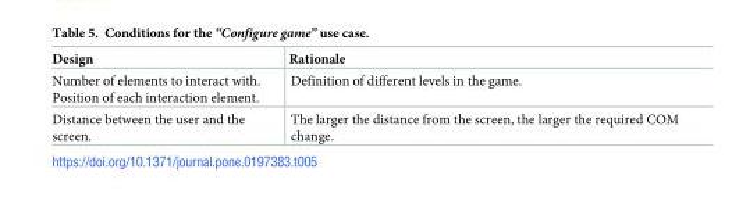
<table><thead><tr><td>Design</td><td>Rationale</td></tr></thead><tbody><tr><td>Number of elements to interact with. Position of each interaction element.</td><td>Definition of different levels in the game.</td></tr><tr><td>Distance between the user and the screen.</td><td>The larger the distance from the screen, the larger the required COM change.</td></tr></tbody></table>